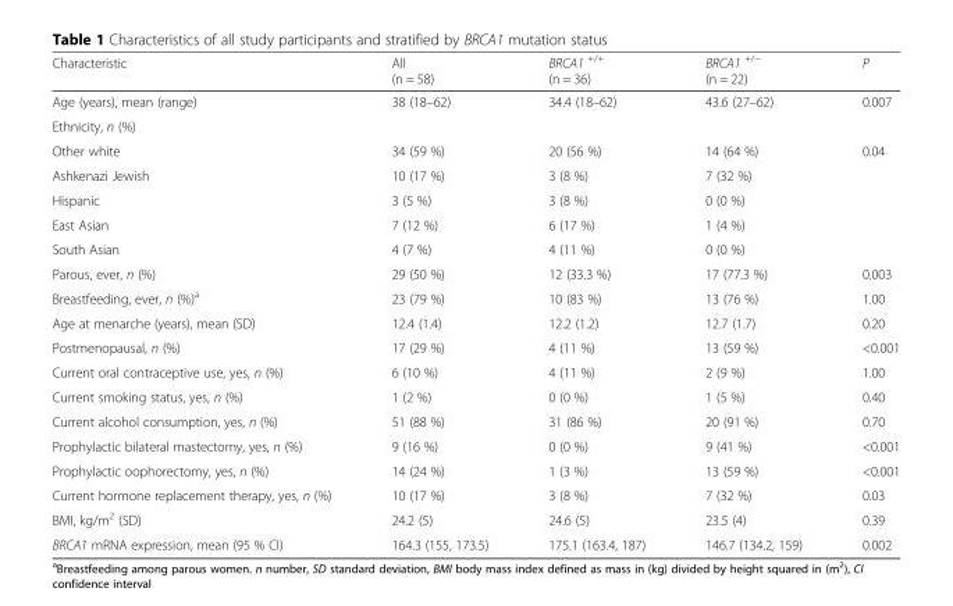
<table><thead><tr><td>Characteristic</td><td>All (n = 58)</td><td>BRCA1 <sup>+/+</sup> (n = 36)</td><td>BRCA1 <sup>+/−</sup> (n = 22)</td><td>P</td></tr></thead><tbody><tr><td>Age (years), mean (range)</td><td>38 (18–62)</td><td>34.4 (18–62)</td><td>43.6 (27–62)</td><td>0.007</td></tr><tr><td colspan="5">Ethnicity, n (%)</td></tr><tr><td>Other white</td><td>34 (59 %)</td><td>20 (56 %)</td><td>14 (64 %)</td><td rowspan="5">0.04</td></tr><tr><td>Ashkenazi Jewish</td><td>10 (17 %)</td><td>3 (8 %)</td><td>7 (32 %)</td></tr><tr><td>Hispanic</td><td>3 (5 %)</td><td>3 (8 %)</td><td>0 (0 %)</td></tr><tr><td>East Asian</td><td>7 (12 %)</td><td>6 (17 %)</td><td>1 (4 %)</td></tr><tr><td>South Asian</td><td>4 (7 %)</td><td>4 (11 %)</td><td>0 (0 %)</td></tr><tr><td>Parous, ever, n (%)</td><td>29 (50 %)</td><td>12 (33.3 %)</td><td>17 (77.3 %)</td><td>0.003</td></tr><tr><td>Breastfeeding, ever, n (%)<sup>a</sup></td><td>23 (79 %)</td><td>10 (83 %)</td><td>13 (76 %)</td><td>1.00</td></tr><tr><td>Age at menarche (years), mean (SD)</td><td>12.4 (1.4)</td><td>12.2 (1.2)</td><td>12.7 (1.7)</td><td>0.20</td></tr><tr><td>Postmenopausal, n (%)</td><td>17 (29 %)</td><td>4 (11 %)</td><td>13 (59 %)</td><td>&lt;0.001</td></tr><tr><td>Current oral contraceptive use, yes, n (%)</td><td>6 (10 %)</td><td>4 (11 %)</td><td>2 (9 %)</td><td>1.00</td></tr><tr><td>Current smoking status, yes, n (%)</td><td>1 (2 %)</td><td>0 (0 %)</td><td>1 (5 %)</td><td>0.40</td></tr><tr><td>Current alcohol consumption, yes, n (%)</td><td>51 (88 %)</td><td>31 (86 %)</td><td>20 (91 %)</td><td>0.70</td></tr><tr><td>Prophylactic bilateral mastectomy, yes, n (%)</td><td>9 (16 %)</td><td>0 (0 %)</td><td>9 (41 %)</td><td>&lt;0.001</td></tr><tr><td>Prophylactic oophorectomy, yes, n (%)</td><td>14 (24 %)</td><td>1 (3 %)</td><td>13 (59 %)</td><td>&lt;0.001</td></tr><tr><td>Current hormone replacement therapy, yes, n (%)</td><td>10 (17 %)</td><td>3 (8 %)</td><td>7 (32 %)</td><td>0.03</td></tr><tr><td>BMI, kg/m<sup>2</sup> (SD)</td><td>24.2 (5)</td><td>24.6 (5)</td><td>23.5 (4)</td><td>0.39</td></tr><tr><td>BRCA1 mRNA expression, mean (95 % CI)</td><td>164.3 (155, 173.5)</td><td>175.1 (163.4, 187)</td><td>146.7 (134.2, 159)</td><td>0.002</td></tr></tbody></table>